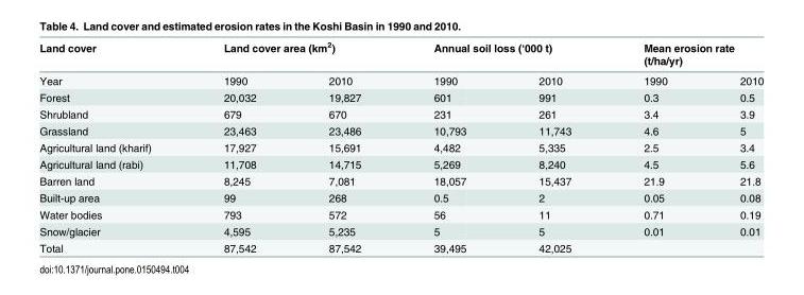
<table><thead><tr><td rowspan="2">Land cover Year</td><td colspan="2">Land cover area (km<sup>2</sup>)</td><td colspan="2">Annual soil loss (‘000 t)</td><td colspan="2">Mean erosion rate (t/ha/yr)</td></tr><tr><td>1990</td><td>2010</td><td>1990</td><td>2010</td><td>1990</td><td>2010</td></tr></thead><tbody><tr><td>Forest</td><td>20,032</td><td>19,827</td><td>601</td><td>991</td><td>0.3</td><td>0.5</td></tr><tr><td>Shrubland</td><td>679</td><td>670</td><td>231</td><td>261</td><td>3.4</td><td>3.9</td></tr><tr><td>Grassland</td><td>23,463</td><td>23,486</td><td>10,793</td><td>11,743</td><td>4.6</td><td>5</td></tr><tr><td>Agricultural land (kharif)</td><td>17,927</td><td>15,691</td><td>4,482</td><td>5,335</td><td>2.5</td><td>3.4</td></tr><tr><td>Agricultural land (rabi)</td><td>11,708</td><td>14,715</td><td>5,269</td><td>8,240</td><td>4.5</td><td>5.6</td></tr><tr><td>Barren land</td><td>8,245</td><td>7,081</td><td>18,057</td><td>15,437</td><td>21.9</td><td>21.8</td></tr><tr><td>Built-up area</td><td>99</td><td>268</td><td>0.5</td><td>2</td><td>0.05</td><td>0.08</td></tr><tr><td>Water bodies</td><td>793</td><td>572</td><td>56</td><td>11</td><td>0.71</td><td>0.19</td></tr><tr><td>Snow/glacier</td><td>4,595</td><td>5,235</td><td>5</td><td>5</td><td>0.01</td><td>0.01</td></tr><tr><td>Total</td><td>87,542</td><td>87,542</td><td>39,495</td><td>42,025</td><td></td><td></td></tr></tbody></table>